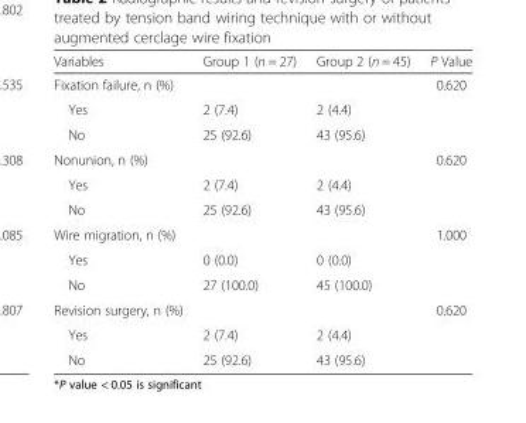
<table><thead><tr><td>Variables</td><td>Group 1 (n = 27)</td><td>Group 2 (n = 45)</td><td>P Value</td></tr></thead><tbody><tr><td>Fixation failure, n (%)</td><td></td><td></td><td>0.620</td></tr><tr><td>Yes</td><td>2 (7.4)</td><td>2 (4.4)</td><td></td></tr><tr><td>No</td><td>25 (92.6)</td><td>43 (95.6)</td><td></td></tr><tr><td>Nonunion, n (%)</td><td></td><td></td><td>0.620</td></tr><tr><td>Yes</td><td>2 (7.4)</td><td>2 (4.4)</td><td></td></tr><tr><td>No</td><td>25 (92.6)</td><td>43 (95.6)</td><td></td></tr><tr><td>Wire migration, n (%)</td><td></td><td></td><td>1.000</td></tr><tr><td>Yes</td><td>0 (0.0)</td><td>0 (0.0)</td><td></td></tr><tr><td>No</td><td>27 (100.0)</td><td>45 (100.0)</td><td></td></tr><tr><td>Revision surgery, n (%)</td><td></td><td></td><td>0.620</td></tr><tr><td>Yes</td><td>2 (7.4)</td><td>2 (4.4)</td><td></td></tr><tr><td>No</td><td>25 (92.6)</td><td>43 (95.6)</td><td></td></tr></tbody></table>